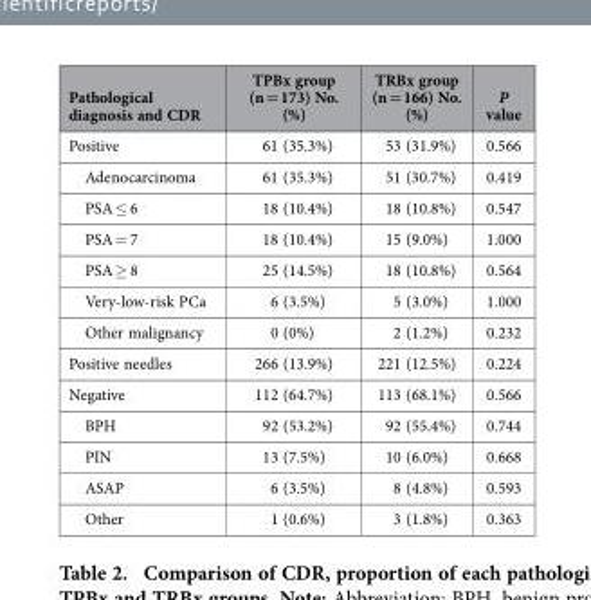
<table><thead><tr><td>Pathological diagnosis and CDR</td><td>TPBx group (n = 173) No. (%)</td><td>TRBx group (n = 166) No. (%)</td><td>P value</td></tr></thead><tbody><tr><td>Positive</td><td>61 (35.3%)</td><td>53 (31.9%)</td><td>0.566</td></tr><tr><td>Adenocarcinoma</td><td>61 (35.3%)</td><td>51 (30.7%)</td><td>0.419</td></tr><tr><td>PSA ≤ 6</td><td>18 (10.4%)</td><td>18 (10.8%)</td><td>0.547</td></tr><tr><td>PSA = 7</td><td>18 (10.4%)</td><td>15 (9.0%)</td><td>1.000</td></tr><tr><td>PSA ≥ 8</td><td>25 (14.5%)</td><td>18 (10.8%)</td><td>0.564</td></tr><tr><td>Very-low-risk PCa</td><td>6 (3.5%)</td><td>5 (3.0%)</td><td>1.000</td></tr><tr><td>Other malignancy</td><td>0 (0%)</td><td>2 (1.2%)</td><td>0.232</td></tr><tr><td>Positive needles</td><td>266 (13.9%)</td><td>221 (12.5%)</td><td>0.224</td></tr><tr><td>Negative</td><td>112 (64.7%)</td><td>113 (68.1%)</td><td>0.566</td></tr><tr><td>BPH</td><td>92 (53.2%)</td><td>92 (55.4%)</td><td>0.744</td></tr><tr><td>PIN</td><td>13 (7.5%)</td><td>10 (6.0%)</td><td>0.668</td></tr><tr><td>ASAP</td><td>6 (3.5%)</td><td>8 (4.8%)</td><td>0.593</td></tr><tr><td>Other</td><td>1 (0.6%)</td><td>3 (1.8%)</td><td>0.363</td></tr></tbody></table>